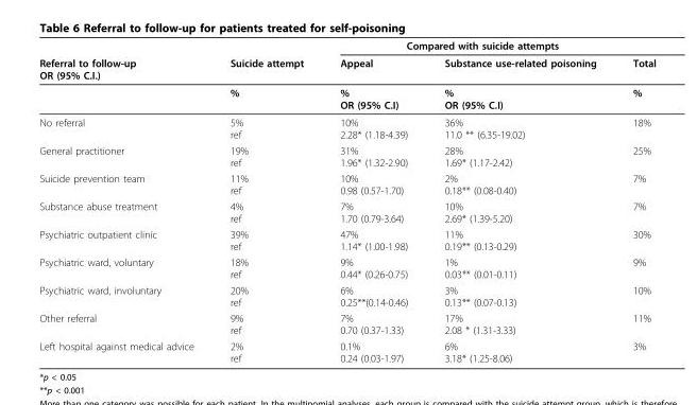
<table><thead><tr><td rowspan="2">Referral to follow-up OR (95% C.I.)</td><td rowspan="2">Suicide attempt</td><td colspan="2">Compared with suicide attempts</td><td rowspan="2">Total</td></tr><tr><td>Appeal</td><td>Substance use-related poisoning</td></tr></thead><tbody><tr><td></td><td>%</td><td>% OR (95% C.I)</td><td>% OR (95% C.I)</td><td>%</td></tr><tr><td>No referral</td><td>5% ref</td><td>10% 2.28* (1.18-4.39)</td><td>36% 11.0 ** (6.35-19.02)</td><td>18%</td></tr><tr><td>General practitioner</td><td>19% ref</td><td>31% 1.96* (1.32-2.90)</td><td>28% 1.69* (1.17-2.42)</td><td>25%</td></tr><tr><td>Suicide prevention team</td><td>11% ref</td><td>10% 0.98 (0.57-1.70)</td><td>2% 0.18** (0.08-0.40)</td><td>7%</td></tr><tr><td>Substance abuse treatment</td><td>4% ref</td><td>7% 1.70 (0.79-3.64)</td><td>10% 2.69* (1.39-5.20)</td><td>7%</td></tr><tr><td>Psychiatric outpatient clinic</td><td>39% ref</td><td>47% 1.14* (1.00-1.98)</td><td>11% 0.19** (0.13-0.29)</td><td>30%</td></tr><tr><td>Psychiatric ward, voluntary</td><td>18% ref</td><td>9% 0.44* (0.26-0.75)</td><td>1% 0.03** (0.01-0.11)</td><td>9%</td></tr><tr><td>Psychiatric ward, involuntary</td><td>20% ref</td><td>6% 0.25**(0.14-0.46)</td><td>3% 0.13** (0.07-0.13)</td><td>10%</td></tr><tr><td>Other referral</td><td>9% ref</td><td>7% 0.70 (0.37-1.33)</td><td>17% 2.08 * (1.31-3.33)</td><td>11%</td></tr><tr><td>Left hospital against medical advice</td><td>2% ref</td><td>0.1% 0.24 (0.03-1.97)</td><td>6% 3.18* (1.25-8.06)</td><td>3%</td></tr></tbody></table>